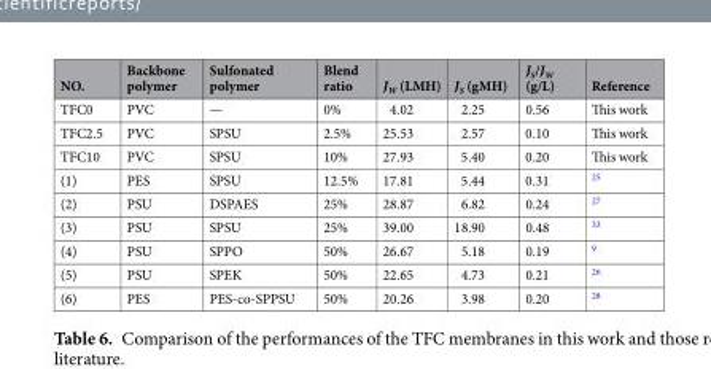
<table><thead><tr><td>NO.</td><td>Backbone polymer</td><td>Sulfonated polymer</td><td>Blend ratio</td><td>J<sub>W</sub> (LMH)</td><td>J<sub>S</sub> (gMH)</td><td>J<sub>S</sub>/J<sub>W</sub> (g/L)</td><td>Reference</td></tr></thead><tbody><tr><td>TFC0</td><td>PVC</td><td>—</td><td>0%</td><td>4.02</td><td>2.25</td><td>0.56</td><td>This work</td></tr><tr><td>TFC2.5</td><td>PVC</td><td>SPSU</td><td>2.5%</td><td>25.53</td><td>2.57</td><td>0.10</td><td>This work</td></tr><tr><td>TFC10</td><td>PVC</td><td>SPSU</td><td>10%</td><td>27.93</td><td>5.40</td><td>0.20</td><td>This work</td></tr><tr><td>(1)</td><td>PES</td><td>SPSU</td><td>12.5%</td><td>17.81</td><td>5.44</td><td>0.31</td><td><sup>25</sup></td></tr><tr><td>(2)</td><td>PSU</td><td>DSPAES</td><td>25%</td><td>28.87</td><td>6.82</td><td>0.24</td><td><sup>27</sup></td></tr><tr><td>(3)</td><td>PSU</td><td>SPSU</td><td>25%</td><td>39.00</td><td>18.90</td><td>0.48</td><td><sup>33</sup></td></tr><tr><td>(4)</td><td>PSU</td><td>SPPO</td><td>50%</td><td>26.67</td><td>5.18</td><td>0.19</td><td><sup>9</sup></td></tr><tr><td>(5)</td><td>PSU</td><td>SPEK</td><td>50%</td><td>22.65</td><td>4.73</td><td>0.21</td><td><sup>26</sup></td></tr><tr><td>(6)</td><td>PES</td><td>PES-co-SPPSU</td><td>50%</td><td>20.26</td><td>3.98</td><td>0.20</td><td><sup>28</sup></td></tr></tbody></table>